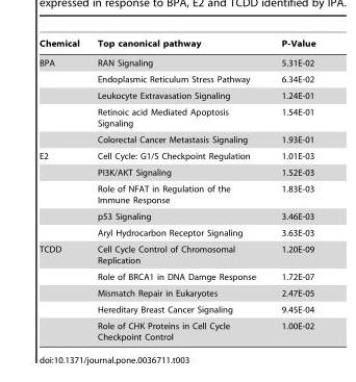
<table><thead><tr><td>Chemical</td><td>Top canonical pathway</td><td>P-Value</td></tr></thead><tbody><tr><td rowspan="5">BPA</td><td>RAN Signaling</td><td>5.31E-02</td></tr><tr><td>Endoplasmic Reticulum Stress Pathway</td><td>6.34E-02</td></tr><tr><td>Leukocyte Extravasation Signaling</td><td>1.24E-01</td></tr><tr><td>Retinoic acid Mediated Apoptosis Signaling</td><td>1.54E-01</td></tr><tr><td>Colorectal Cancer Metastasis Signaling</td><td>1.93E-01</td></tr><tr><td rowspan="5">E2</td><td>Cell Cycle: G1/S Checkpoint Regulation</td><td>1.01E-03</td></tr><tr><td>PI3K/AKT Signaling</td><td>1.52E-03</td></tr><tr><td>Role of NFAT in Regulation of the Immune Response</td><td>1.83E-03</td></tr><tr><td>p53 Signaling</td><td>3.46E-03</td></tr><tr><td>Aryl Hydrocarbon Receptor Signaling</td><td>3.63E-03</td></tr><tr><td rowspan="5">TCDD</td><td>Cell Cycle Control of Chromosomal Replication</td><td>1.20E-09</td></tr><tr><td>Role of BRCA1 in DNA Damge Response</td><td>1.72E-07</td></tr><tr><td>Mismatch Repair in Eukaryotes</td><td>2.47E-05</td></tr><tr><td>Hereditary Breast Cancer Signaling</td><td>9.45E-04</td></tr><tr><td>Role of CHK Proteins in Cell Cycle Checkpoint Control</td><td>1.00E-02</td></tr></tbody></table>